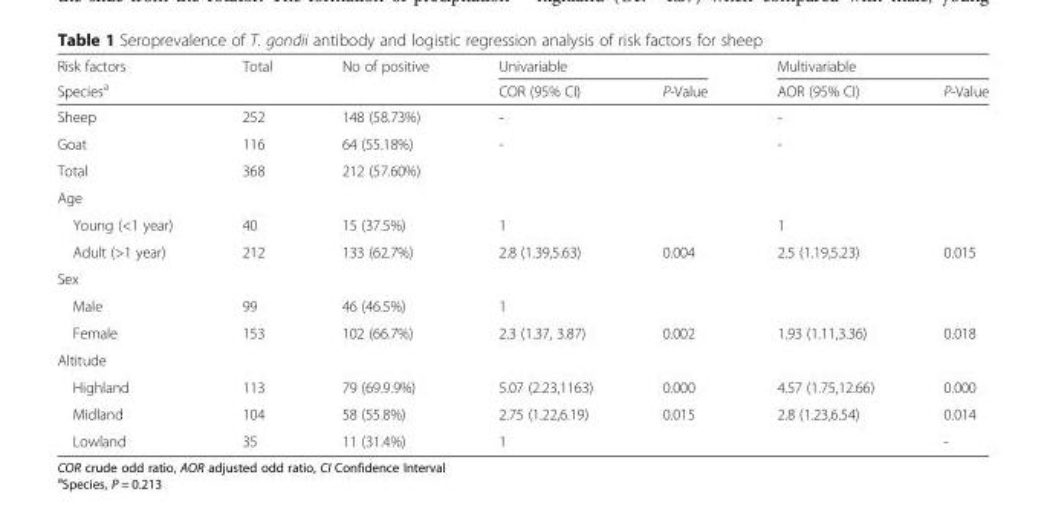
<table><thead><tr><td rowspan="2">Risk factors Species<sup>a</sup></td><td rowspan="2">Total</td><td rowspan="2">No of positive</td><td colspan="2">Univariable</td><td colspan="2">Multivariable</td></tr><tr><td>COR (95% CI)</td><td>P-Value</td><td>AOR (95% CI)</td><td>P-Value</td></tr></thead><tbody><tr><td>Sheep</td><td>252</td><td>148 (58.73%)</td><td>-</td><td></td><td>-</td><td></td></tr><tr><td>Goat</td><td>116</td><td>64 (55.18%)</td><td>-</td><td></td><td>-</td><td></td></tr><tr><td>Total</td><td>368</td><td>212 (57.60%)</td><td></td><td></td><td></td><td></td></tr><tr><td colspan="7">Age</td></tr><tr><td>Young (&lt;1 year)</td><td>40</td><td>15 (37.5%)</td><td>1</td><td></td><td>1</td><td></td></tr><tr><td>Adult (&gt;1 year)</td><td>212</td><td>133 (62.7%)</td><td>2.8 (1.39,5.63)</td><td>0.004</td><td>2.5 (1.19,5.23)</td><td>0.015</td></tr><tr><td colspan="7">Sex</td></tr><tr><td>Male</td><td>99</td><td>46 (46.5%)</td><td>1</td><td></td><td></td><td></td></tr><tr><td>Female</td><td>153</td><td>102 (66.7%)</td><td>2.3 (1.37, 3.87)</td><td>0.002</td><td>1.93 (1.11,3.36)</td><td>0.018</td></tr><tr><td colspan="7">Altitude</td></tr><tr><td>Highland</td><td>113</td><td>79 (69.9.9%)</td><td>5.07 (2.23,1163)</td><td>0.000</td><td>4.57 (1.75,12.66)</td><td>0.000</td></tr><tr><td>Midland</td><td>104</td><td>58 (55.8%)</td><td>2.75 (1.22,6.19)</td><td>0.015</td><td>2.8 (1.23,6.54)</td><td>0.014</td></tr><tr><td>Lowland</td><td>35</td><td>11 (31.4%)</td><td>1</td><td></td><td></td><td>-</td></tr></tbody></table>